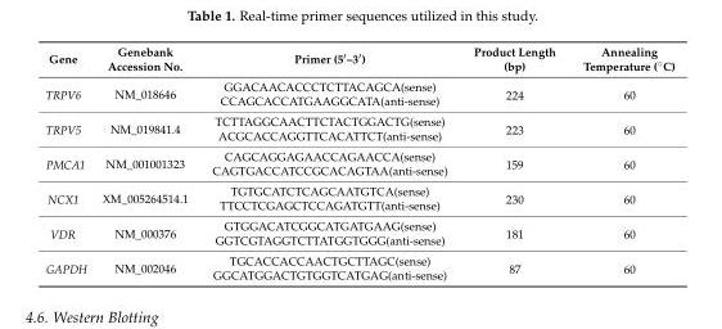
<table><thead><tr><td>Gene</td><td>Genebank Accession No.</td><td>Primer (5′–3′)</td><td>Product Length (bp)</td><td>Annealing Temperature (˝C)</td></tr></thead><tbody><tr><td rowspan="2">TRPV6</td><td rowspan="2">NM_018646</td><td>GGACAACACCCTCTTACAGCA(sense)</td><td rowspan="2">224</td><td rowspan="2">60</td></tr><tr><td>CCAGCACCATGAAGGCATA(anti-sense)</td></tr><tr><td rowspan="2">TRPV5</td><td rowspan="2">NM_019841.4</td><td>TCTTAGGCAACTTCTACTGGACTG(sense)</td><td rowspan="2">223</td><td rowspan="2">60</td></tr><tr><td>ACGCACCAGGTTCACATTCT(anti-sense)</td></tr><tr><td rowspan="2">PMCA1</td><td rowspan="2">NM_001001323</td><td>CAGCAGGAGAACCAGAACCA(sense)</td><td rowspan="2">159</td><td rowspan="2">60</td></tr><tr><td>CAGTGACCATCCGCACAGTAA(anti-sense)</td></tr><tr><td rowspan="2">NCX1</td><td rowspan="2">XM_005264514.1</td><td>TGTGCATCTCAGCAATGTCA(sense)</td><td rowspan="2">230</td><td rowspan="2">60</td></tr><tr><td>TTCCTCGAGCTCCAGATGTT(anti-sense)</td></tr><tr><td rowspan="2">VDR</td><td rowspan="2">NM_000376</td><td>GTGGACATCGGCATGATGAAG(sense)</td><td rowspan="2">181</td><td rowspan="2">60</td></tr><tr><td>GGTCGTAGGTCTTATGGTGGG(anti-sense)</td></tr><tr><td rowspan="2">GAPDH</td><td rowspan="2">NM_002046</td><td>TGCACCACCAACTGCTTAGC(sense)</td><td rowspan="2">87</td><td rowspan="2">60</td></tr><tr><td>GGCATGGACTGTGGTCATGAG(anti-sense)</td></tr></tbody></table>